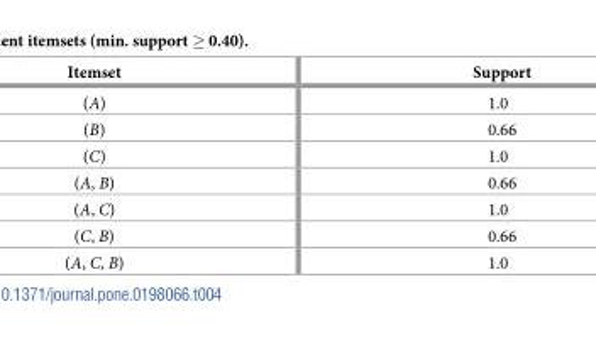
<table><thead><tr><td>Itemset</td><td>Support</td></tr></thead><tbody><tr><td>(A)</td><td>1.0</td></tr><tr><td>(B)</td><td>0.66</td></tr><tr><td>(C)</td><td>1.0</td></tr><tr><td>(A, B)</td><td>0.66</td></tr><tr><td>(A, C)</td><td>1.0</td></tr><tr><td>(C, B)</td><td>0.66</td></tr><tr><td>(A, C, B)</td><td>1.0</td></tr></tbody></table>